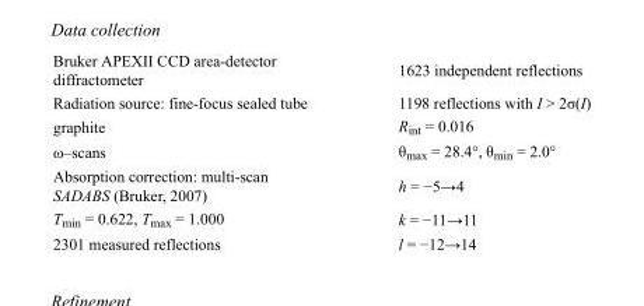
<table><tbody><tr><td>Bruker APEXII CCD area-detector diffractometer</td><td>1623 independent reflections</td></tr><tr><td>Radiation source: fine-focus sealed tube</td><td>1198 reflections with I &gt; 2σ(I)</td></tr><tr><td>graphite</td><td>R<sub>int</sub> = 0.016</td></tr><tr><td>ω–scans</td><td>θ<sub>max</sub> = 28.4°, θ<sub>min</sub> = 2.0°</td></tr><tr><td>Absorption correction: multi-scan SADABS (Bruker, 2007)</td><td>h = −5→4</td></tr><tr><td>T<sub>min</sub> = 0.622, T<sub>max</sub> = 1.000</td><td>k = −11→11</td></tr><tr><td>2301 measured reflections</td><td>l = −12→14</td></tr></tbody></table>